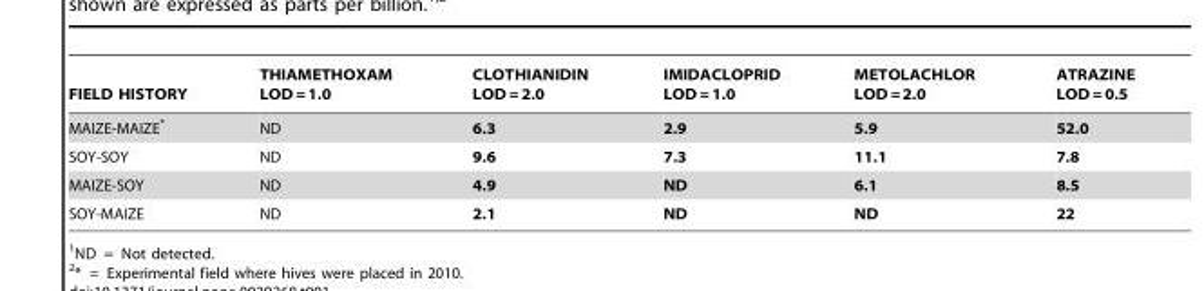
<table><thead><tr><td>FIELD HISTORY</td><td>THIAMETHOXAM LOD = 1.0</td><td>CLOTHIANIDIN LOD = 2.0</td><td>IMIDACLOPRID LOD = 1.0</td><td>METOLACHLOR LOD = 2.0</td><td>ATRAZINE LOD = 0.5</td></tr></thead><tbody><tr><td>MAIZE-MAIZE*</td><td>ND</td><td>6.3</td><td>2.9</td><td>5.9</td><td>52.0</td></tr><tr><td>SOY-SOY</td><td>ND</td><td>9.6</td><td>7.3</td><td>11.1</td><td>7.8</td></tr><tr><td>MAIZE-SOY</td><td>ND</td><td>4.9</td><td>ND</td><td>6.1</td><td>8.5</td></tr><tr><td>SOY-MAIZE</td><td>ND</td><td>2.1</td><td>ND</td><td>ND</td><td>22</td></tr></tbody></table>